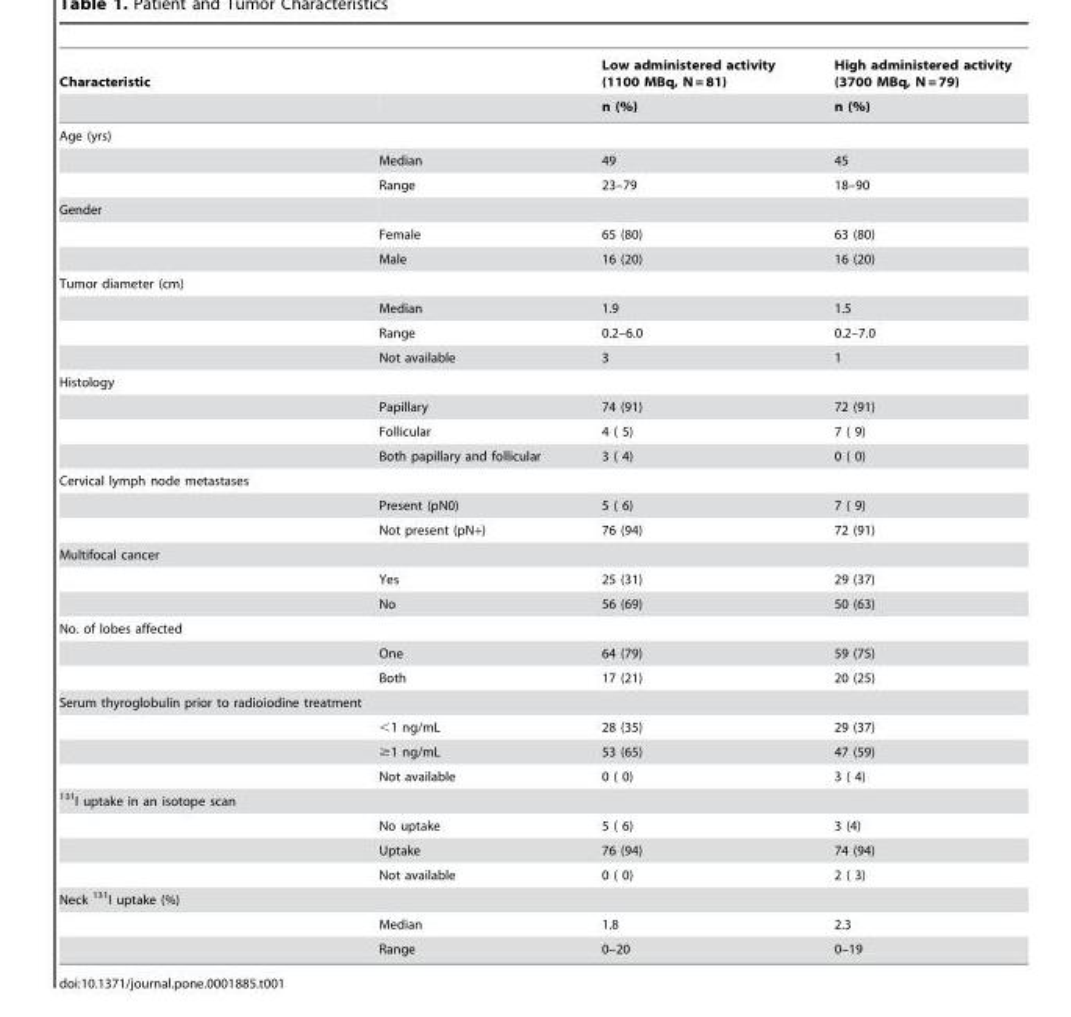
<table><thead><tr><td rowspan="2">Characteristic</td><td rowspan="2"></td><td rowspan="2">Low administered activity (1100 MBq, N = 81) n (%)</td><td rowspan="2">High administered activity (3700 MBq, N = 79) n (%)</td></tr><tr></tr></thead><tbody><tr><td colspan="4">Age (yrs)</td></tr><tr><td></td><td>Median</td><td>49</td><td>45</td></tr><tr><td></td><td>Range</td><td>23–79</td><td>18–90</td></tr><tr><td colspan="4">Gender</td></tr><tr><td></td><td>Female</td><td>65 (80)</td><td>63 (80)</td></tr><tr><td></td><td>Male</td><td>16 (20)</td><td>16 (20)</td></tr><tr><td colspan="4">Tumor diameter (cm)</td></tr><tr><td></td><td>Median</td><td>1.9</td><td>1.5</td></tr><tr><td></td><td>Range</td><td>0.2–6.0</td><td>0.2–7.0</td></tr><tr><td></td><td>Not available</td><td>3</td><td>1</td></tr><tr><td colspan="4">Histology</td></tr><tr><td></td><td>Papillary</td><td>74 (91)</td><td>72 (91)</td></tr><tr><td></td><td>Follicular</td><td>4 ( 5)</td><td>7 ( 9)</td></tr><tr><td></td><td>Both papillary and follicular</td><td>3 ( 4)</td><td>0 ( 0)</td></tr><tr><td colspan="4">Cervical lymph node metastases</td></tr><tr><td></td><td>Present (pN0)</td><td>5 ( 6)</td><td>7 ( 9)</td></tr><tr><td></td><td>Not present (pN+)</td><td>76 (94)</td><td>72 (91)</td></tr><tr><td colspan="4">Multifocal cancer</td></tr><tr><td></td><td>Yes</td><td>25 (31)</td><td>29 (37)</td></tr><tr><td></td><td>No</td><td>56 (69)</td><td>50 (63)</td></tr><tr><td colspan="4">No. of lobes affected</td></tr><tr><td></td><td>One</td><td>64 (79)</td><td>59 (75)</td></tr><tr><td></td><td>Both</td><td>17 (21)</td><td>20 (25)</td></tr><tr><td colspan="4">Serum thyroglobulin prior to radioiodine treatment</td></tr><tr><td></td><td>&lt;1 ng/mL</td><td>28 (35)</td><td>29 (37)</td></tr><tr><td></td><td>≥1 ng/mL</td><td>53 (65)</td><td>47 (59)</td></tr><tr><td></td><td>Not available</td><td>0 ( 0)</td><td>3 ( 4)</td></tr><tr><td colspan="4"><sup>131</sup>I uptake in an isotope scan</td></tr><tr><td></td><td>No uptake</td><td>5 ( 6)</td><td>3 (4)</td></tr><tr><td></td><td>Uptake</td><td>76 (94)</td><td>74 (94)</td></tr><tr><td></td><td>Not available</td><td>0 ( 0)</td><td>2 ( 3)</td></tr><tr><td colspan="4">Neck <sup>131</sup>I uptake (%)</td></tr><tr><td></td><td>Median</td><td>1.8</td><td>2.3</td></tr><tr><td></td><td>Range</td><td>0–20</td><td>0–19</td></tr></tbody></table>